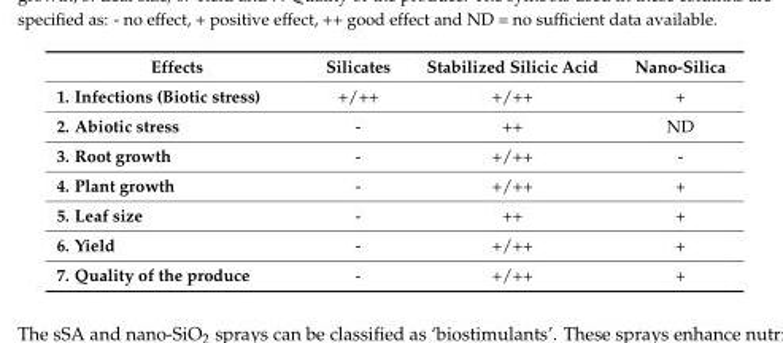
<table><thead><tr><td>Effects</td><td>Silicates</td><td>Stabilized Silicic Acid</td><td>Nano-Silica</td></tr></thead><tbody><tr><td>1. Infections (Biotic stress)</td><td>+/++</td><td>+/++</td><td>+</td></tr><tr><td>2. Abiotic stress</td><td>-</td><td>++</td><td>ND</td></tr><tr><td>3. Root growth</td><td>-</td><td>+/++</td><td>-</td></tr><tr><td>4. Plant growth</td><td>-</td><td>+/++</td><td>+</td></tr><tr><td>5. Leaf size</td><td>-</td><td>++</td><td>+</td></tr><tr><td>6. Yield</td><td>-</td><td>+/++</td><td>+</td></tr><tr><td>7. Quality of the produce</td><td>-</td><td>+/++</td><td>+</td></tr></tbody></table>